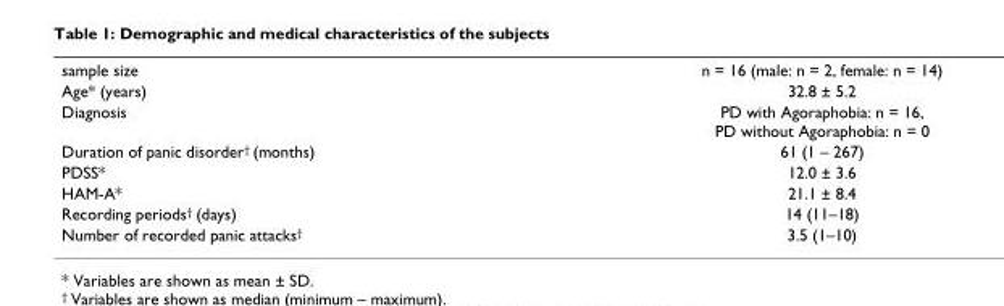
<table><tbody><tr><td>sample size</td><td>n = 16 (male: n = 2, female: n = 14)</td></tr><tr><td>Age* (years)</td><td>32.8 ± 5.2</td></tr><tr><td>Diagnosis</td><td>PD with Agoraphobia: n = 16, PD without Agoraphobia: n = 0</td></tr><tr><td>Duration of panic disorder<sup>†</sup> (months)</td><td>61 (1 – 267)</td></tr><tr><td>PDSS*</td><td>12.0 ± 3.6</td></tr><tr><td>HAM-A*</td><td>21.1 ± 8.4</td></tr><tr><td>Recording periods<sup>†</sup> (days)</td><td>14 (11–18)</td></tr><tr><td>Number of recorded panic attacks<sup>†</sup></td><td>3.5 (1–10)</td></tr></tbody></table>